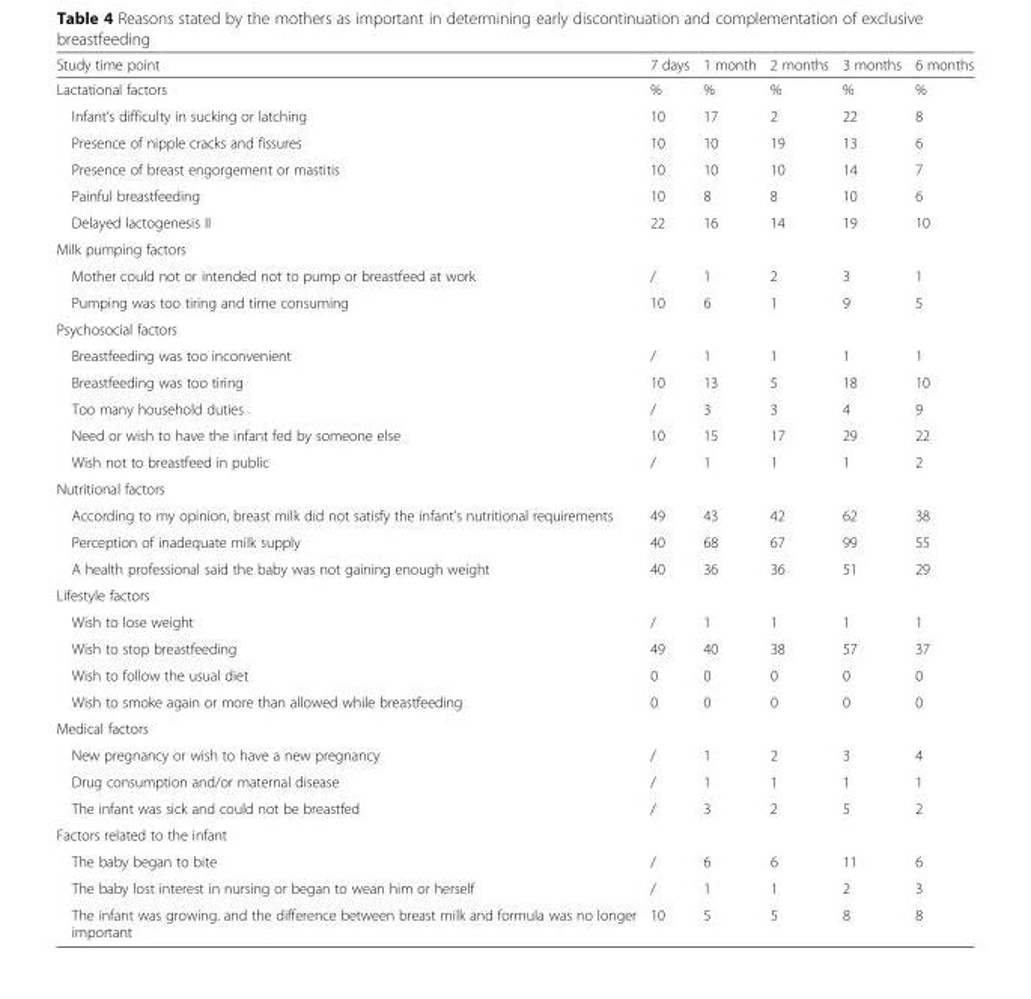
<table><thead><tr><td>Study time point</td><td>7 days</td><td>1 month</td><td>2 months</td><td>3 months</td><td>6 months</td></tr></thead><tbody><tr><td>Lactational factors</td><td>%</td><td>%</td><td>%</td><td>%</td><td>%</td></tr><tr><td>Infant’s difficulty in sucking or latching</td><td>10</td><td>17</td><td>2</td><td>22</td><td>8</td></tr><tr><td>Presence of nipple cracks and fissures</td><td>10</td><td>10</td><td>19</td><td>13</td><td>6</td></tr><tr><td>Presence of breast engorgement or mastitis</td><td>10</td><td>10</td><td>10</td><td>14</td><td>7</td></tr><tr><td>Painful breastfeeding</td><td>10</td><td>8</td><td>8</td><td>10</td><td>6</td></tr><tr><td>Delayed lactogenesis II</td><td>22</td><td>16</td><td>14</td><td>19</td><td>10</td></tr><tr><td colspan="6">Milk pumping factors</td></tr><tr><td>Mother could not or intended not to pump or breastfeed at work</td><td>/</td><td>1</td><td>2</td><td>3</td><td>1</td></tr><tr><td>Pumping was too tiring and time consuming</td><td>10</td><td>6</td><td>1</td><td>9</td><td>5</td></tr><tr><td colspan="6">Psychosocial factors</td></tr><tr><td>Breastfeeding was too inconvenient</td><td>/</td><td>1</td><td>1</td><td>1</td><td>1</td></tr><tr><td>Breastfeeding was too tiring</td><td>10</td><td>13</td><td>5</td><td>18</td><td>10</td></tr><tr><td>Too many household duties</td><td>/</td><td>3</td><td>3</td><td>4</td><td>9</td></tr><tr><td>Need or wish to have the infant fed by someone else</td><td>10</td><td>15</td><td>17</td><td>29</td><td>22</td></tr><tr><td>Wish not to breastfeed in public</td><td>/</td><td>1</td><td>1</td><td>1</td><td>2</td></tr><tr><td colspan="6">Nutritional factors</td></tr><tr><td>According to my opinion, breast milk did not satisfy the infant’s nutritional requirements</td><td>49</td><td>43</td><td>42</td><td>62</td><td>38</td></tr><tr><td>Perception of inadequate milk supply</td><td>40</td><td>68</td><td>67</td><td>99</td><td>55</td></tr><tr><td>A health professional said the baby was not gaining enough weight</td><td>40</td><td>36</td><td>36</td><td>51</td><td>29</td></tr><tr><td colspan="6">Lifestyle factors</td></tr><tr><td>Wish to lose weight</td><td>/</td><td>1</td><td>1</td><td>1</td><td>1</td></tr><tr><td>Wish to stop breastfeeding</td><td>49</td><td>40</td><td>38</td><td>57</td><td>37</td></tr><tr><td>Wish to follow the usual diet</td><td>0</td><td>0</td><td>0</td><td>0</td><td>0</td></tr><tr><td>Wish to smoke again or more than allowed while breastfeeding</td><td>0</td><td>0</td><td>0</td><td>0</td><td>0</td></tr><tr><td colspan="6">Medical factors</td></tr><tr><td>New pregnancy or wish to have a new pregnancy</td><td>/</td><td>1</td><td>2</td><td>3</td><td>4</td></tr><tr><td>Drug consumption and/or maternal disease</td><td>/</td><td>1</td><td>1</td><td>1</td><td>1</td></tr><tr><td>The infant was sick and could not be breastfed</td><td>/</td><td>3</td><td>2</td><td>5</td><td>2</td></tr><tr><td colspan="6">Factors related to the infant</td></tr><tr><td>The baby began to bite</td><td>/</td><td>6</td><td>6</td><td>11</td><td>6</td></tr><tr><td>The baby lost interest in nursing or began to wean him or herself</td><td>/</td><td>1</td><td>1</td><td>2</td><td>3</td></tr><tr><td>The infant was growing. and the difference between breast milk and formula was no longer important</td><td>10</td><td>5</td><td>5</td><td>8</td><td>8</td></tr></tbody></table>